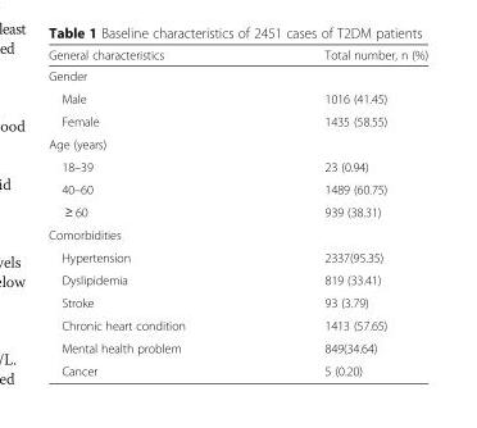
<table><thead><tr><td>General characteristics</td><td>Total number, n (%)</td></tr></thead><tbody><tr><td colspan="2">Gender</td></tr><tr><td>Male</td><td>1016 (41.45)</td></tr><tr><td>Female</td><td>1435 (58.55)</td></tr><tr><td colspan="2">Age (years)</td></tr><tr><td>18–39</td><td>23 (0.94)</td></tr><tr><td>40–60</td><td>1489 (60.75)</td></tr><tr><td>≥ 60</td><td>939 (38.31)</td></tr><tr><td colspan="2">Comorbidities</td></tr><tr><td>Hypertension</td><td>2337(95.35)</td></tr><tr><td>Dyslipidemia</td><td>819 (33.41)</td></tr><tr><td>Stroke</td><td>93 (3.79)</td></tr><tr><td>Chronic heart condition</td><td>1413 (57.65)</td></tr><tr><td>Mental health problem</td><td>849(34.64)</td></tr><tr><td>Cancer</td><td>5 (0.20)</td></tr></tbody></table>